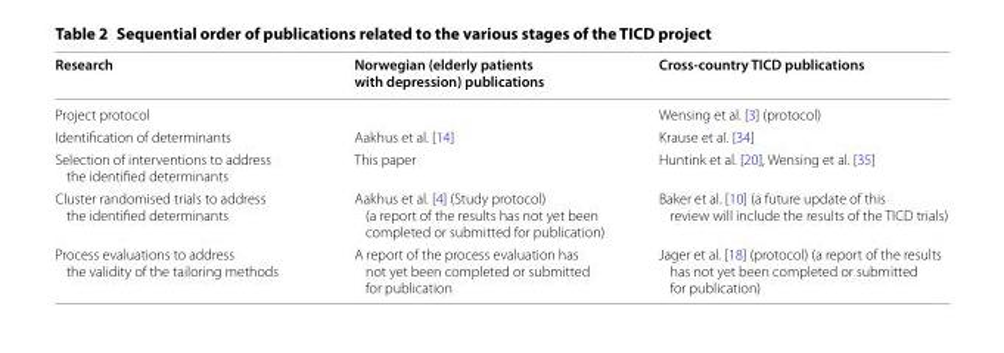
<table><thead><tr><td>Research</td><td>Norwegian (elderly patients with depression) publications</td><td>Cross-country TICD publications</td></tr></thead><tbody><tr><td>Project protocol</td><td></td><td>Wensing et al. [3] (protocol)</td></tr><tr><td>Identification of determinants</td><td>Aakhus et al. [14]</td><td>Krause et al. [34]</td></tr><tr><td>Selection of interventions to address the identified determinants</td><td>This paper</td><td>Huntink et al. [20], Wensing et al. [35]</td></tr><tr><td>Cluster randomised trials to address the identified determinants</td><td>Aakhus et al. [4] (Study protocol) (a report of the results has not yet been completed or submitted for publication)</td><td>Baker et al. [10] (a future update of this review will include the results of the TICD trials)</td></tr><tr><td>Process evaluations to address the validity of the tailoring methods</td><td>A report of the process evaluation has not yet been completed or submitted for publication</td><td>Jager et al. [18] (protocol) (a report of the results has not yet been completed or submitted for publication)</td></tr></tbody></table>